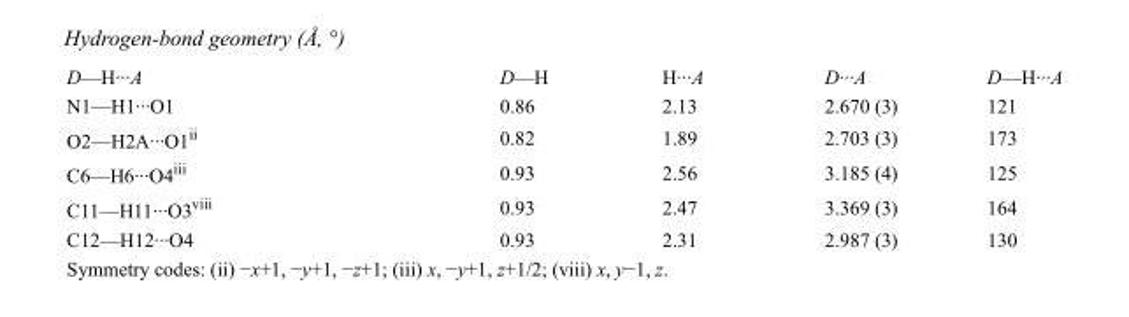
<table><tbody><tr><td>D—H···A</td><td>D—H</td><td>H···A</td><td>D···A</td><td>D—H···A</td></tr><tr><td>N1—H1···O1</td><td>0.86</td><td>2.13</td><td>2.670 (3)</td><td>121</td></tr><tr><td>O2—H2A···O1<sup>ii</sup></td><td>0.82</td><td>1.89</td><td>2.703 (3)</td><td>173</td></tr><tr><td>C6—H6···O4<sup>iii</sup></td><td>0.93</td><td>2.56</td><td>3.185 (4)</td><td>125</td></tr><tr><td>C11—H11···O3<sup>viii</sup></td><td>0.93</td><td>2.47</td><td>3.369 (3)</td><td>164</td></tr><tr><td>C12—H12···O4</td><td>0.93</td><td>2.31</td><td>2.987 (3)</td><td>130</td></tr></tbody></table>